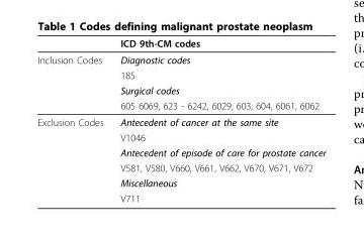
<table><thead><tr><td></td><td>ICD 9th-CM codes</td></tr></thead><tbody><tr><td rowspan="4">Inclusion Codes</td><td>Diagnostic codes</td></tr><tr><td>185</td></tr><tr><td>Surgical codes</td></tr><tr><td>605 6069, 623 - 6242, 6029, 603, 604, 6061, 6062</td></tr><tr><td rowspan="6">Exclusion Codes</td><td>Antecedent of cancer at the same site</td></tr><tr><td>V1046</td></tr><tr><td>Antecedent of episode of care for prostate cancer</td></tr><tr><td>V581, V580, V660, V661, V662, V670, V671, V672</td></tr><tr><td>Miscellaneous</td></tr><tr><td>V711</td></tr></tbody></table>